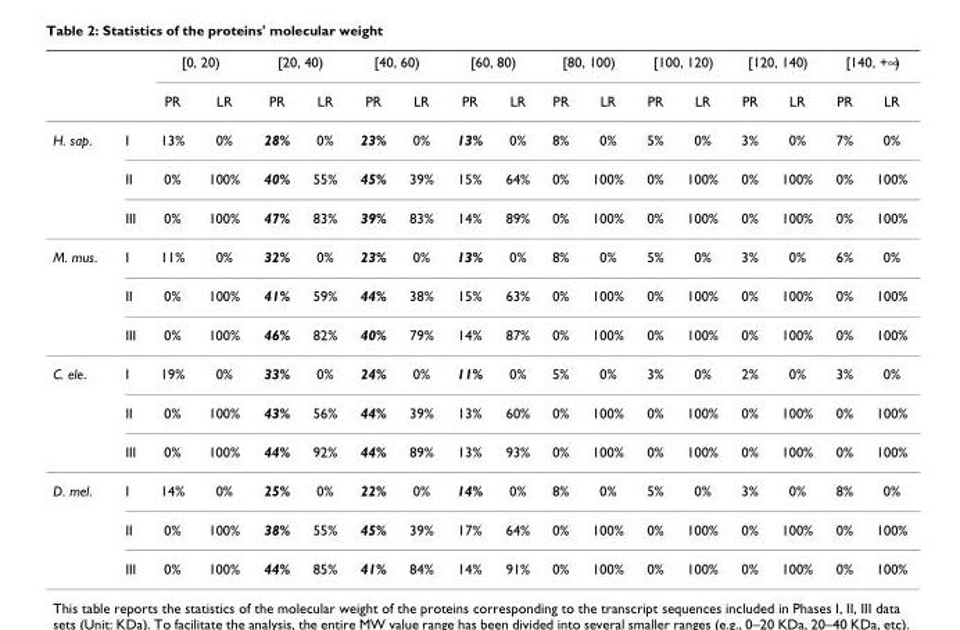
<table><thead><tr><td rowspan="2"></td><td rowspan="2"></td><td colspan="2">[0, 20)</td><td colspan="2">[20, 40)</td><td colspan="2">[40, 60)</td><td colspan="2">[60, 80)</td><td colspan="2">[80, 100)</td><td colspan="2">[100, 120)</td><td colspan="2">[120, 140)</td><td colspan="2">[140, +∞)</td></tr><tr><td>PR</td><td>LR</td><td>PR</td><td>LR</td><td>PR</td><td>LR</td><td>PR</td><td>LR</td><td>PR</td><td>LR</td><td>PR</td><td>LR</td><td>PR</td><td>LR</td><td>PR</td><td>LR</td></tr></thead><tbody><tr><td rowspan="3">H. sap.</td><td>I</td><td>13%</td><td>0%</td><td>28%</td><td>0%</td><td>23%</td><td>0%</td><td>13%</td><td>0%</td><td>8%</td><td>0%</td><td>5%</td><td>0%</td><td>3%</td><td>0%</td><td>7%</td><td>0%</td></tr><tr><td>II</td><td>0%</td><td>100%</td><td>40%</td><td>55%</td><td>45%</td><td>39%</td><td>15%</td><td>64%</td><td>0%</td><td>100%</td><td>0%</td><td>100%</td><td>0%</td><td>100%</td><td>0%</td><td>100%</td></tr><tr><td>III</td><td>0%</td><td>100%</td><td>47%</td><td>83%</td><td>39%</td><td>83%</td><td>14%</td><td>89%</td><td>0%</td><td>100%</td><td>0%</td><td>100%</td><td>0%</td><td>100%</td><td>0%</td><td>100%</td></tr><tr><td rowspan="3">M. mus.</td><td>I</td><td>11%</td><td>0%</td><td>32%</td><td>0%</td><td>23%</td><td>0%</td><td>13%</td><td>0%</td><td>8%</td><td>0%</td><td>5%</td><td>0%</td><td>3%</td><td>0%</td><td>6%</td><td>0%</td></tr><tr><td>II</td><td>0%</td><td>100%</td><td>41%</td><td>59%</td><td>44%</td><td>38%</td><td>15%</td><td>63%</td><td>0%</td><td>100%</td><td>0%</td><td>100%</td><td>0%</td><td>100%</td><td>0%</td><td>100%</td></tr><tr><td>III</td><td>0%</td><td>100%</td><td>46%</td><td>82%</td><td>40%</td><td>79%</td><td>14%</td><td>87%</td><td>0%</td><td>100%</td><td>0%</td><td>100%</td><td>0%</td><td>100%</td><td>0%</td><td>100%</td></tr><tr><td rowspan="3">C. ele.</td><td>I</td><td>19%</td><td>0%</td><td>33%</td><td>0%</td><td>24%</td><td>0%</td><td>11%</td><td>0%</td><td>5%</td><td>0%</td><td>3%</td><td>0%</td><td>2%</td><td>0%</td><td>3%</td><td>0%</td></tr><tr><td>II</td><td>0%</td><td>100%</td><td>43%</td><td>56%</td><td>44%</td><td>39%</td><td>13%</td><td>60%</td><td>0%</td><td>100%</td><td>0%</td><td>100%</td><td>0%</td><td>100%</td><td>0%</td><td>100%</td></tr><tr><td>III</td><td>0%</td><td>100%</td><td>44%</td><td>92%</td><td>44%</td><td>89%</td><td>13%</td><td>93%</td><td>0%</td><td>100%</td><td>0%</td><td>100%</td><td>0%</td><td>100%</td><td>0%</td><td>100%</td></tr><tr><td rowspan="3">D. mel.</td><td>I</td><td>14%</td><td>0%</td><td>25%</td><td>0%</td><td>22%</td><td>0%</td><td>14%</td><td>0%</td><td>8%</td><td>0%</td><td>5%</td><td>0%</td><td>3%</td><td>0%</td><td>8%</td><td>0%</td></tr><tr><td>II</td><td>0%</td><td>100%</td><td>38%</td><td>55%</td><td>45%</td><td>39%</td><td>17%</td><td>64%</td><td>0%</td><td>100%</td><td>0%</td><td>100%</td><td>0%</td><td>100%</td><td>0%</td><td>100%</td></tr><tr><td>III</td><td>0%</td><td>100%</td><td>44%</td><td>85%</td><td>41%</td><td>84%</td><td>14%</td><td>91%</td><td>0%</td><td>100%</td><td>0%</td><td>100%</td><td>0%</td><td>100%</td><td>0%</td><td>100%</td></tr></tbody></table>